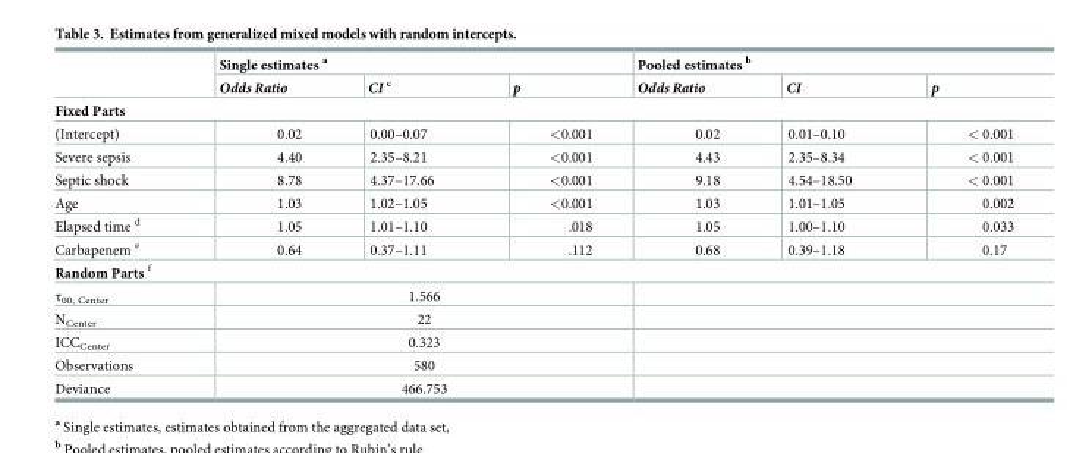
<table><thead><tr><td rowspan="2"></td><td colspan="3">Single estimates <sup>a</sup></td><td colspan="3">Pooled estimates <sup>b</sup></td></tr><tr><td>Odds Ratio</td><td>CI <sup>c</sup></td><td>p</td><td>Odds Ratio</td><td>CI</td><td>p</td></tr></thead><tbody><tr><td colspan="7">Fixed Parts</td></tr><tr><td>(Intercept)</td><td>0.02</td><td>0.00–0.07</td><td>&lt;0.001</td><td>0.02</td><td>0.01–0.10</td><td>&lt; 0.001</td></tr><tr><td>Severe sepsis</td><td>4.40</td><td>2.35–8.21</td><td>&lt;0.001</td><td>4.43</td><td>2.35–8.34</td><td>&lt; 0.001</td></tr><tr><td>Septic shock</td><td>8.78</td><td>4.37–17.66</td><td>&lt;0.001</td><td>9.18</td><td>4.54–18.50</td><td>&lt; 0.001</td></tr><tr><td>Age</td><td>1.03</td><td>1.02–1.05</td><td>&lt;0.001</td><td>1.03</td><td>1.01–1.05</td><td>0.002</td></tr><tr><td>Elapsed time <sup>d</sup></td><td>1.05</td><td>1.01–1.10</td><td>.018</td><td>1.05</td><td>1.00–1.10</td><td>0.033</td></tr><tr><td>Carbapenem <sup>e</sup></td><td>0.64</td><td>0.37–1.11</td><td>.112</td><td>0.68</td><td>0.39–1.18</td><td>0.17</td></tr><tr><td colspan="7">Random Parts <sup>f</sup></td></tr><tr><td>τ<sub>00, Center</sub></td><td colspan="3">1.566</td><td colspan="3"></td></tr><tr><td>N<sub>Center</sub></td><td colspan="3">22</td><td colspan="3"></td></tr><tr><td>ICC<sub>Center</sub></td><td colspan="3">0.323</td><td colspan="3"></td></tr><tr><td>Observations</td><td colspan="3">580</td><td colspan="3"></td></tr><tr><td>Deviance</td><td colspan="3">466.753</td><td colspan="3"></td></tr></tbody></table>